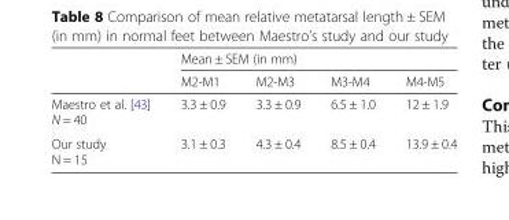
<table><thead><tr><td rowspan="2"></td><td colspan="4">Mean ± SEM (in mm)</td></tr><tr><td>M2-M1</td><td>M2-M3</td><td>M3-M4</td><td>M4-M5</td></tr></thead><tbody><tr><td>Maestro et al. [43] N = 40</td><td>3.3 ± 0.9</td><td>3.3 ± 0.9</td><td>6.5 ± 1.0</td><td>12 ± 1.9</td></tr><tr><td>Our study N = 15</td><td>3.1 ± 0.3</td><td>4.3 ± 0.4</td><td>8.5 ± 0.4</td><td>13.9 ± 0.4</td></tr></tbody></table>